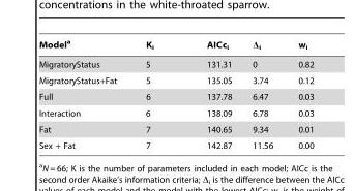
<table><thead><tr><td>Model<sup>a</sup></td><td>K<sub>i</sub></td><td>AICc<sub>i</sub></td><td>Δ<sub>i</sub></td><td>w<sub>i</sub></td></tr></thead><tbody><tr><td>MigratoryStatus</td><td>5</td><td>131.31</td><td>0</td><td>0.82</td></tr><tr><td>MigratoryStatus+Fat</td><td>5</td><td>135.05</td><td>3.74</td><td>0.12</td></tr><tr><td>Full</td><td>6</td><td>137.78</td><td>6.47</td><td>0.03</td></tr><tr><td>Interaction</td><td>6</td><td>138.09</td><td>6.78</td><td>0.03</td></tr><tr><td>Fat</td><td>7</td><td>140.65</td><td>9.34</td><td>0.01</td></tr><tr><td>Sex + Fat</td><td>7</td><td>142.87</td><td>11.56</td><td>0.00</td></tr></tbody></table>